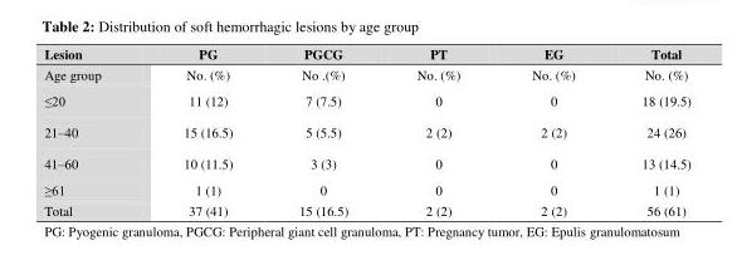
<table><thead><tr><td>Lesion</td><td>PG</td><td>PGCG</td><td>PT</td><td>EG</td><td>Total</td></tr></thead><tbody><tr><td>Age group</td><td>No. (%)</td><td>No .(%)</td><td>No. (%)</td><td>No. (%)</td><td>No. (%)</td></tr><tr><td>≤20</td><td>11 (12)</td><td>7 (7.5)</td><td>0</td><td>0</td><td>18 (19.5)</td></tr><tr><td>21–40</td><td>15 (16.5)</td><td>5 (5.5)</td><td>2 (2)</td><td>2 (2)</td><td>24 (26)</td></tr><tr><td>41–60</td><td>10 (11.5)</td><td>3 (3)</td><td>0</td><td>0</td><td>13 (14.5)</td></tr><tr><td>≥61</td><td>1 (1)</td><td>0</td><td>0</td><td>0</td><td>1 (1)</td></tr><tr><td>Total</td><td>37 (41)</td><td>15 (16.5)</td><td>2 (2)</td><td>2 (2)</td><td>56 (61)</td></tr></tbody></table>